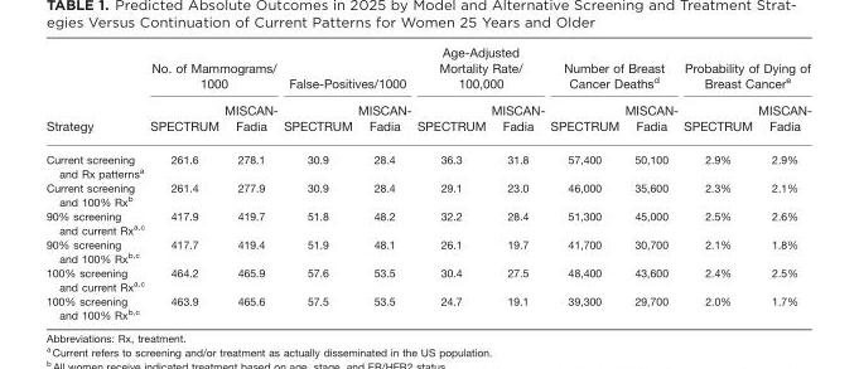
<table><thead><tr><td rowspan="2">Strategy</td><td colspan="2">No. of Mammograms/ 1000</td><td colspan="2">False-Positives/1000</td><td colspan="2">Age-Adjusted Mortality Rate/ 100,000</td><td colspan="2">Number of Breast Cancer Deaths<sup>d</sup></td><td colspan="2">Probability of Dying of Breast Cancer<sup>e</sup></td></tr><tr><td>SPECTRUM</td><td>MISCAN- Fadia</td><td>SPECTRUM</td><td>MISCAN- Fadia</td><td>SPECTRUM</td><td>MISCAN- Fadia</td><td>SPECTRUM</td><td>MISCAN- Fadia</td><td>SPECTRUM</td><td>MISCAN- Fadia</td></tr></thead><tbody><tr><td>Current screening and Rx patterns<sup>a</sup></td><td>261.6</td><td>278.1</td><td>30.9</td><td>28.4</td><td>36.3</td><td>31.8</td><td>57,400</td><td>50,100</td><td>2.9%</td><td>2.9%</td></tr><tr><td>Current screening and 100% Rx<sup>b</sup></td><td>261.4</td><td>277.9</td><td>30.9</td><td>28.4</td><td>29.1</td><td>23.0</td><td>46,000</td><td>35,600</td><td>2.3%</td><td>2.1%</td></tr><tr><td>90% screening and current Rx<sup>a</sup>,<sup>c</sup></td><td>417.9</td><td>419.7</td><td>51.8</td><td>48.2</td><td>32.2</td><td>28.4</td><td>51,300</td><td>45,000</td><td>2.5%</td><td>2.6%</td></tr><tr><td>90% screening and 100% Rx<sup>b</sup>,<sup>c</sup></td><td>417.7</td><td>419.4</td><td>51.9</td><td>48.1</td><td>26.1</td><td>19.7</td><td>41,700</td><td>30,700</td><td>2.1%</td><td>1.8%</td></tr><tr><td>100% screening and current Rx<sup>a</sup>,<sup>c</sup></td><td>464.2</td><td>465.9</td><td>57.6</td><td>53.5</td><td>30.4</td><td>27.5</td><td>48,400</td><td>43,600</td><td>2.4%</td><td>2.5%</td></tr><tr><td>100% screening and 100% Rx<sup>b</sup>,<sup>c</sup></td><td>463.9</td><td>465.6</td><td>57.5</td><td>53.5</td><td>24.7</td><td>19.1</td><td>39,300</td><td>29,700</td><td>2.0%</td><td>1.7%</td></tr></tbody></table>